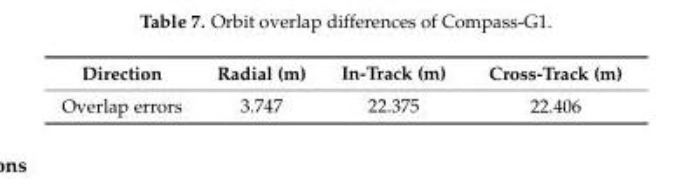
<table><thead><tr><td>Direction</td><td>Radial (m)</td><td>In-Track (m)</td><td>Cross-Track (m)</td></tr></thead><tbody><tr><td>Overlap errors</td><td>3.747</td><td>22.375</td><td>22.406</td></tr></tbody></table>